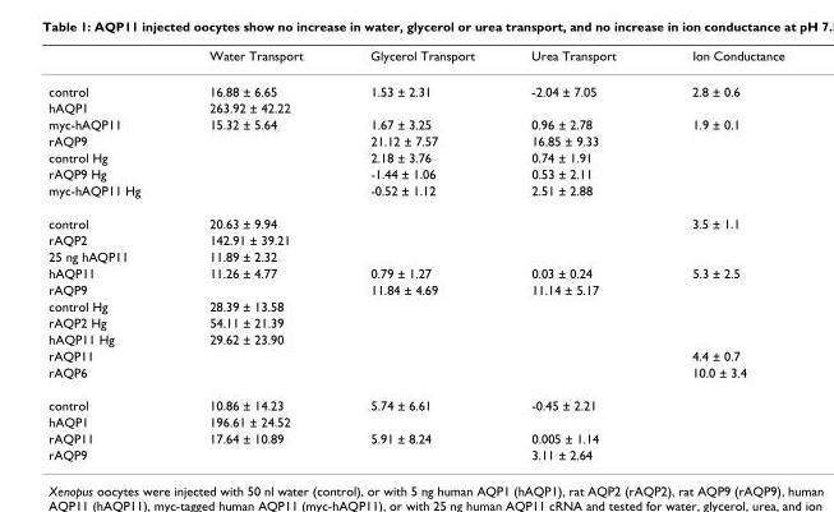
<table><thead><tr><td></td><td>Water Transport</td><td>Glycerol Transport</td><td>Urea Transport</td><td>Ion Conductance</td></tr></thead><tbody><tr><td>control</td><td>16.88 ± 6.65</td><td>1.53 ± 2.31</td><td>-2.04 ± 7.05</td><td>2.8 ± 0.6</td></tr><tr><td>hAQP1</td><td>263.92 ± 42.22</td><td></td><td></td><td></td></tr><tr><td>myc-hAQP11</td><td>15.32 ± 5.64</td><td>1.67 ± 3.25</td><td>0.96 ± 2.78</td><td>1.9 ± 0.1</td></tr><tr><td>rAQP9</td><td></td><td>21.12 ± 7.57</td><td>16.85 ± 9.33</td><td></td></tr><tr><td>control Hg</td><td></td><td>2.18 ± 3.76</td><td>0.74 ± 1.91</td><td></td></tr><tr><td>rAQP9 Hg</td><td></td><td>-1.44 ± 1.06</td><td>0.53 ± 2.11</td><td></td></tr><tr><td>myc-hAQP11 Hg</td><td></td><td>-0.52 ± 1.12</td><td>2.51 ± 2.88</td><td></td></tr><tr><td>control</td><td>20.63 ± 9.94</td><td></td><td></td><td>3.5 ± 1.1</td></tr><tr><td>rAQP2</td><td>142.91 ± 39.21</td><td></td><td></td><td></td></tr><tr><td>25 ng hAQP11</td><td>11.89 ± 2.32</td><td></td><td></td><td></td></tr><tr><td>hAQP11</td><td>11.26 ± 4.77</td><td>0.79 ± 1.27</td><td>0.03 ± 0.24</td><td>5.3 ± 2.5</td></tr><tr><td>rAQP9</td><td></td><td>11.84 ± 4.69</td><td>11.14 ± 5.17</td><td></td></tr><tr><td>control Hg</td><td>28.39 ± 13.58</td><td></td><td></td><td></td></tr><tr><td>rAQP2 Hg</td><td>54.11 ± 21.39</td><td></td><td></td><td></td></tr><tr><td>hAQP11 Hg</td><td>29.62 ± 23.90</td><td></td><td></td><td></td></tr><tr><td>rAQP11</td><td></td><td></td><td></td><td>4.4 ± 0.7</td></tr><tr><td>rAQP6</td><td></td><td></td><td></td><td>10.0 ± 3.4</td></tr><tr><td>control</td><td>10.86 ± 14.23</td><td>5.74 ± 6.61</td><td>-0.45 ± 2.21</td><td></td></tr><tr><td>hAQP1</td><td>196.61 ± 24.52</td><td></td><td></td><td></td></tr><tr><td>rAQP11</td><td>17.64 ± 10.89</td><td>5.91 ± 8.24</td><td>0.005 ± 1.14</td><td></td></tr><tr><td>rAQP9</td><td></td><td></td><td>3.11 ± 2.64</td><td></td></tr></tbody></table>